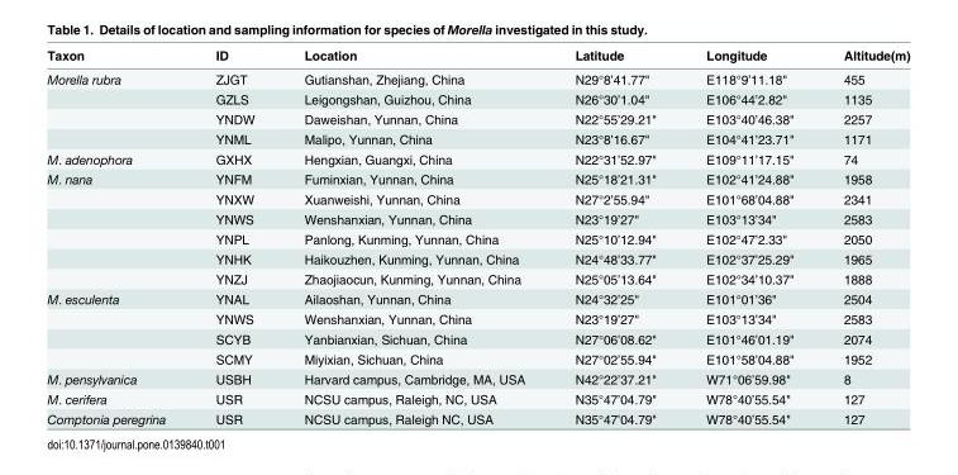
<table><thead><tr><td>Taxon</td><td>ID</td><td>Location</td><td>Latitude</td><td>Longitude</td><td>Altitude(m)</td></tr></thead><tbody><tr><td rowspan="4">Morella rubra</td><td>ZJGT</td><td>Gutianshan, Zhejiang, China</td><td>N29°8’41.77&quot;</td><td>E118°9’11.18&quot;</td><td>455</td></tr><tr><td>GZLS</td><td>Leigongshan, Guizhou, China</td><td>N26°30’1.04&quot;</td><td>E106°44’2.82&quot;</td><td>1135</td></tr><tr><td>YNDW</td><td>Daweishan, Yunnan, China</td><td>N22°55’29.21&quot;</td><td>E103°40’46.38&quot;</td><td>2257</td></tr><tr><td>YNML</td><td>Malipo, Yunnan, China</td><td>N23°8’16.67&quot;</td><td>E104°41’23.71&quot;</td><td>1171</td></tr><tr><td>M. adenophora</td><td>GXHX</td><td>Hengxian, Guangxi, China</td><td>N22°31’52.97&quot;</td><td>E109°11’17.15&quot;</td><td>74</td></tr><tr><td rowspan="6">M. nana</td><td>YNFM</td><td>Fuminxian, Yunnan, China</td><td>N25°18’21.31&quot;</td><td>E102°41’24.88&quot;</td><td>1958</td></tr><tr><td>YNXW</td><td>Xuanweishi, Yunnan, China</td><td>N27°2’55.94&quot;</td><td>E101°68’04.88&quot;</td><td>2341</td></tr><tr><td>YNWS</td><td>Wenshanxian, Yunnan, China</td><td>N23°19’27&quot;</td><td>E103°13’34&quot;</td><td>2583</td></tr><tr><td>YNPL</td><td>Panlong, Kunming, Yunnan, China</td><td>N25°10’12.94&quot;</td><td>E102°47’2.33&quot;</td><td>2050</td></tr><tr><td>YNHK</td><td>Haikouzhen, Kunming, Yunnan, China</td><td>N24°48’33.77&quot;</td><td>E102°37’25.29&quot;</td><td>1965</td></tr><tr><td>YNZJ</td><td>Zhaojiaocun, Kunming, Yunnan, China</td><td>N25°05’13.64&quot;</td><td>E102°34’10.37&quot;</td><td>1888</td></tr><tr><td rowspan="4">M. esculenta</td><td>YNAL</td><td>Ailaoshan, Yunnan, China</td><td>N24°32’25&quot;</td><td>E101°01’36&quot;</td><td>2504</td></tr><tr><td>YNWS</td><td>Wenshanxian, Yunnan, China</td><td>N23°19’27&quot;</td><td>E103°13’34&quot;</td><td>2583</td></tr><tr><td>SCYB</td><td>Yanbianxian, Sichuan, China</td><td>N27°06’08.62&quot;</td><td>E101°46’01.19&quot;</td><td>2074</td></tr><tr><td>SCMY</td><td>Miyixian, Sichuan, China</td><td>N27°02’55.94&quot;</td><td>E101°58’04.88&quot;</td><td>1952</td></tr><tr><td>M. pensylvanica</td><td>USBH</td><td>Harvard campus, Cambridge, MA, USA</td><td>N42°22’37.21&quot;</td><td>W71°06’59.98&quot;</td><td>8</td></tr><tr><td>M. cerifera</td><td>USR</td><td>NCSU campus, Raleigh, NC, USA</td><td>N35°47’04.79&quot;</td><td>W78°40’55.54&quot;</td><td>127</td></tr><tr><td>Comptonia peregrina</td><td>USR</td><td>NCSU campus, Raleigh NC, USA</td><td>N35°47’04.79&quot;</td><td>W78°40’55.54&quot;</td><td>127</td></tr></tbody></table>